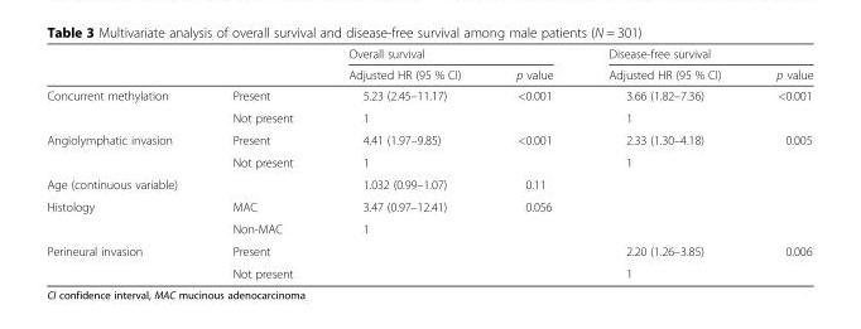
<table><thead><tr><td rowspan="2"></td><td rowspan="2"></td><td colspan="2">Overall survival</td><td colspan="2">Disease-free survival</td></tr><tr><td>Adjusted HR (95 % CI)</td><td>p value</td><td>Adjusted HR (95 % CI)</td><td>p value</td></tr></thead><tbody><tr><td rowspan="2">Concurrent methylation</td><td>Present</td><td>5.23 (2.45–11.17)</td><td>&lt;0.001</td><td>3.66 (1.82–7.36)</td><td>&lt;0.001</td></tr><tr><td>Not present</td><td>1</td><td></td><td>1</td><td></td></tr><tr><td rowspan="2">Angiolymphatic invasion</td><td>Present</td><td>4.41 (1.97–9.85)</td><td>&lt;0.001</td><td>2.33 (1.30–4.18)</td><td>0.005</td></tr><tr><td>Not present</td><td>1</td><td></td><td>1</td><td></td></tr><tr><td>Age (continuous variable)</td><td></td><td>1.032 (0.99–1.07)</td><td>0.11</td><td></td><td></td></tr><tr><td rowspan="2">Histology</td><td>MAC</td><td>3.47 (0.97–12.41)</td><td>0.056</td><td></td><td></td></tr><tr><td>Non-MAC</td><td>1</td><td></td><td></td><td></td></tr><tr><td rowspan="2">Perineural invasion</td><td>Present</td><td></td><td></td><td>2.20 (1.26–3.85)</td><td>0.006</td></tr><tr><td>Not present</td><td></td><td></td><td>1</td><td></td></tr></tbody></table>